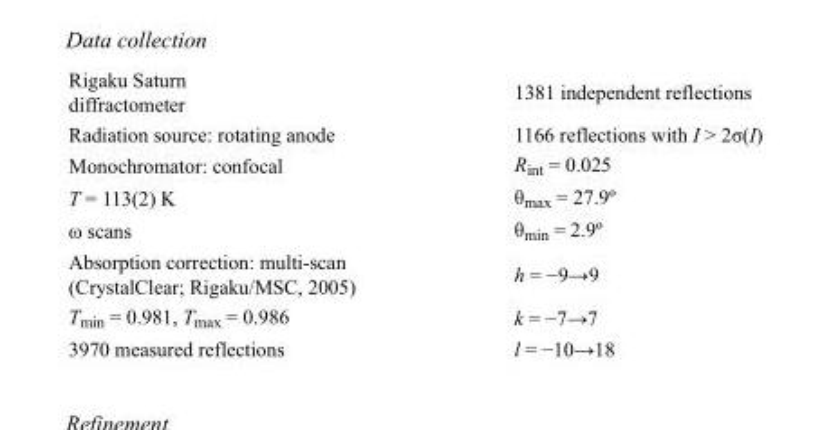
<table><tbody><tr><td>Rigaku Saturn diffractometer</td><td>1381 independent reflections</td></tr><tr><td>Radiation source: rotating anode</td><td>1166 reflections with I &gt; 2σ(I)</td></tr><tr><td>Monochromator: confocal</td><td>R<sub>int</sub> = 0.025</td></tr><tr><td>T = 113(2) K</td><td>θ<sub>max</sub> = 27.9º</td></tr><tr><td>ω scans</td><td>θ<sub>min</sub> = 2.9º</td></tr><tr><td>Absorption correction: multi-scan (CrystalClear; Rigaku/MSC, 2005)</td><td>h = −9→9</td></tr><tr><td>T<sub>min</sub> = 0.981, T<sub>max</sub> = 0.986</td><td>k = −7→7</td></tr><tr><td>3970 measured reflections</td><td>l = −10→18</td></tr></tbody></table>